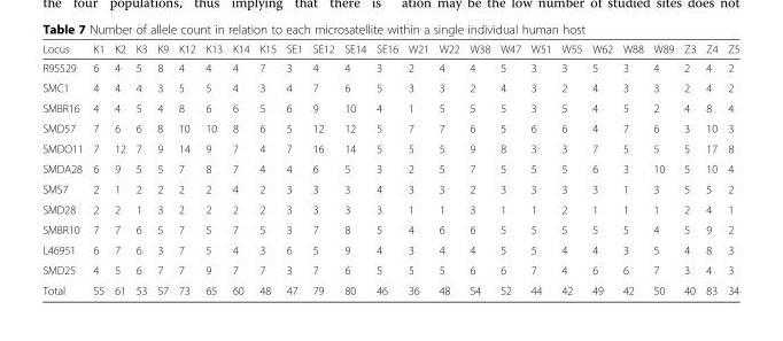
<table><thead><tr><td>Locus</td><td>K1</td><td>K2</td><td>K3</td><td>K9</td><td>K12</td><td>K13</td><td>K14</td><td>K15</td><td>SE1</td><td>SE12</td><td>SE14</td><td>SE16</td><td>W21</td><td>W22</td><td>W38</td><td>W47</td><td>W51</td><td>W55</td><td>W62</td><td>W88</td><td>W89</td><td>Z3</td><td>Z4</td><td>Z5</td></tr></thead><tbody><tr><td>R95529</td><td>6</td><td>4</td><td>5</td><td>8</td><td>4</td><td>4</td><td>4</td><td>7</td><td>3</td><td>4</td><td>4</td><td>3</td><td>2</td><td>4</td><td>4</td><td>5</td><td>3</td><td>3</td><td>5</td><td>3</td><td>4</td><td>2</td><td>4</td><td>2</td></tr><tr><td>SMC1</td><td>4</td><td>4</td><td>4</td><td>3</td><td>5</td><td>5</td><td>4</td><td>3</td><td>4</td><td>7</td><td>6</td><td>5</td><td>3</td><td>3</td><td>2</td><td>4</td><td>3</td><td>2</td><td>4</td><td>3</td><td>3</td><td>2</td><td>4</td><td>2</td></tr><tr><td>SMBR16</td><td>4</td><td>4</td><td>5</td><td>4</td><td>8</td><td>6</td><td>6</td><td>5</td><td>6</td><td>9</td><td>10</td><td>4</td><td>1</td><td>5</td><td>5</td><td>5</td><td>3</td><td>5</td><td>4</td><td>5</td><td>2</td><td>4</td><td>8</td><td>4</td></tr><tr><td>SMD57</td><td>7</td><td>6</td><td>6</td><td>8</td><td>10</td><td>10</td><td>8</td><td>6</td><td>5</td><td>12</td><td>12</td><td>5</td><td>7</td><td>7</td><td>6</td><td>5</td><td>6</td><td>6</td><td>4</td><td>7</td><td>6</td><td>3</td><td>10</td><td>3</td></tr><tr><td>SMDO11</td><td>7</td><td>12</td><td>7</td><td>9</td><td>14</td><td>9</td><td>7</td><td>4</td><td>7</td><td>16</td><td>14</td><td>5</td><td>5</td><td>5</td><td>9</td><td>8</td><td>3</td><td>3</td><td>7</td><td>5</td><td>5</td><td>5</td><td>17</td><td>8</td></tr><tr><td>SMDA28</td><td>6</td><td>9</td><td>5</td><td>5</td><td>7</td><td>8</td><td>7</td><td>4</td><td>4</td><td>6</td><td>5</td><td>3</td><td>2</td><td>5</td><td>7</td><td>5</td><td>5</td><td>5</td><td>6</td><td>3</td><td>10</td><td>5</td><td>10</td><td>4</td></tr><tr><td>SMS7</td><td>2</td><td>1</td><td>2</td><td>2</td><td>2</td><td>2</td><td>4</td><td>2</td><td>3</td><td>3</td><td>3</td><td>4</td><td>3</td><td>3</td><td>2</td><td>3</td><td>3</td><td>3</td><td>3</td><td>1</td><td>3</td><td>5</td><td>5</td><td>2</td></tr><tr><td>SMD28</td><td>2</td><td>2</td><td>1</td><td>3</td><td>2</td><td>2</td><td>2</td><td>2</td><td>3</td><td>3</td><td>3</td><td>3</td><td>1</td><td>1</td><td>3</td><td>1</td><td>1</td><td>2</td><td>1</td><td>1</td><td>1</td><td>2</td><td>4</td><td>1</td></tr><tr><td>SMBR10</td><td>7</td><td>7</td><td>6</td><td>5</td><td>7</td><td>5</td><td>7</td><td>5</td><td>3</td><td>7</td><td>8</td><td>5</td><td>4</td><td>6</td><td>6</td><td>5</td><td>5</td><td>5</td><td>5</td><td>5</td><td>4</td><td>5</td><td>9</td><td>2</td></tr><tr><td>L46951</td><td>6</td><td>7</td><td>6</td><td>3</td><td>7</td><td>5</td><td>4</td><td>3</td><td>6</td><td>5</td><td>9</td><td>4</td><td>3</td><td>4</td><td>4</td><td>5</td><td>5</td><td>4</td><td>4</td><td>3</td><td>5</td><td>4</td><td>8</td><td>3</td></tr><tr><td>SMD25</td><td>4</td><td>5</td><td>6</td><td>7</td><td>7</td><td>9</td><td>7</td><td>7</td><td>3</td><td>7</td><td>6</td><td>5</td><td>5</td><td>5</td><td>6</td><td>6</td><td>7</td><td>4</td><td>6</td><td>6</td><td>7</td><td>3</td><td>4</td><td>3</td></tr><tr><td>Total</td><td>55</td><td>61</td><td>53</td><td>57</td><td>73</td><td>65</td><td>60</td><td>48</td><td>47</td><td>79</td><td>80</td><td>46</td><td>36</td><td>48</td><td>54</td><td>52</td><td>44</td><td>42</td><td>49</td><td>42</td><td>50</td><td>40</td><td>83</td><td>34</td></tr></tbody></table>